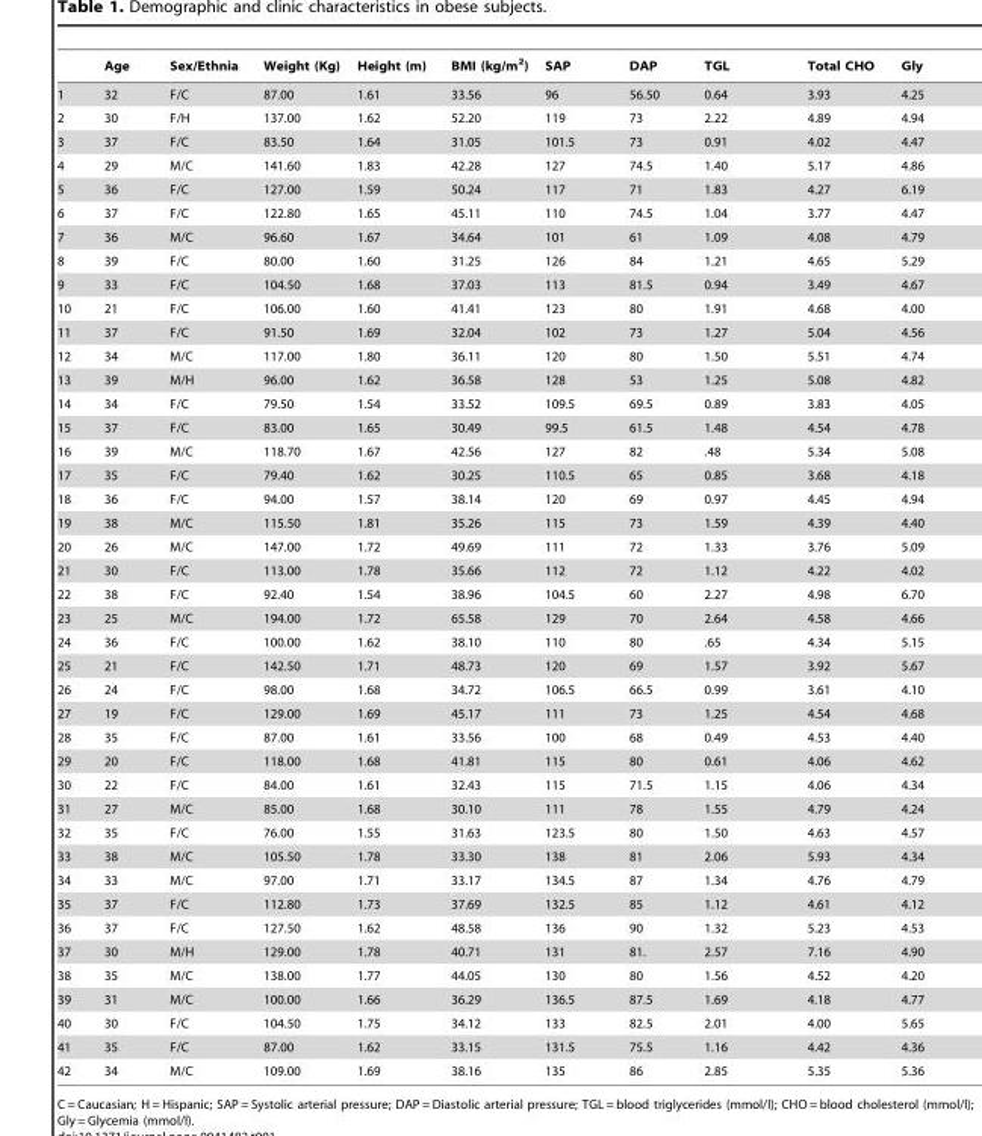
<table><thead><tr><td></td><td>Age</td><td>Sex/Ethnia</td><td>Weight (Kg)</td><td>Height (m)</td><td>BMI (kg/m<sup>2</sup>)</td><td>SAP</td><td>DAP</td><td>TGL</td><td>Total CHO</td><td>Gly</td></tr></thead><tbody><tr><td>1</td><td>32</td><td>F/C</td><td>87.00</td><td>1.61</td><td>33.56</td><td>96</td><td>56.50</td><td>0.64</td><td>3.93</td><td>4.25</td></tr><tr><td>2</td><td>30</td><td>F/H</td><td>137.00</td><td>1.62</td><td>52.20</td><td>119</td><td>73</td><td>2.22</td><td>4.89</td><td>4.94</td></tr><tr><td>3</td><td>37</td><td>F/C</td><td>83.50</td><td>1.64</td><td>31.05</td><td>101.5</td><td>73</td><td>0.91</td><td>4.02</td><td>4.47</td></tr><tr><td>4</td><td>29</td><td>M/C</td><td>141.60</td><td>1.83</td><td>42.28</td><td>127</td><td>74.5</td><td>1.40</td><td>5.17</td><td>4.86</td></tr><tr><td>5</td><td>36</td><td>F/C</td><td>127.00</td><td>1.59</td><td>50.24</td><td>117</td><td>71</td><td>1.83</td><td>4.27</td><td>6.19</td></tr><tr><td>6</td><td>37</td><td>F/C</td><td>122.80</td><td>1.65</td><td>45.11</td><td>110</td><td>74.5</td><td>1.04</td><td>3.77</td><td>4.47</td></tr><tr><td>7</td><td>36</td><td>M/C</td><td>96.60</td><td>1.67</td><td>34.64</td><td>101</td><td>61</td><td>1.09</td><td>4.08</td><td>4.79</td></tr><tr><td>8</td><td>39</td><td>F/C</td><td>80.00</td><td>1.60</td><td>31.25</td><td>126</td><td>84</td><td>1.21</td><td>4.65</td><td>5.29</td></tr><tr><td>9</td><td>33</td><td>F/C</td><td>104.50</td><td>1.68</td><td>37.03</td><td>113</td><td>81.5</td><td>0.94</td><td>3.49</td><td>4.67</td></tr><tr><td>10</td><td>21</td><td>F/C</td><td>106.00</td><td>1.60</td><td>41.41</td><td>123</td><td>80</td><td>1.91</td><td>4.68</td><td>4.00</td></tr><tr><td>11</td><td>37</td><td>F/C</td><td>91.50</td><td>1.69</td><td>32.04</td><td>102</td><td>73</td><td>1.27</td><td>5.04</td><td>4.56</td></tr><tr><td>12</td><td>34</td><td>M/C</td><td>117.00</td><td>1.80</td><td>36.11</td><td>120</td><td>80</td><td>1.50</td><td>5.51</td><td>4.74</td></tr><tr><td>13</td><td>39</td><td>M/H</td><td>96.00</td><td>1.62</td><td>36.58</td><td>128</td><td>53</td><td>1.25</td><td>5.08</td><td>4.82</td></tr><tr><td>14</td><td>34</td><td>F/C</td><td>79.50</td><td>1.54</td><td>33.52</td><td>109.5</td><td>69.5</td><td>0.89</td><td>3.83</td><td>4.05</td></tr><tr><td>15</td><td>37</td><td>F/C</td><td>83.00</td><td>1.65</td><td>30.49</td><td>99.5</td><td>61.5</td><td>1.48</td><td>4.54</td><td>4.78</td></tr><tr><td>16</td><td>39</td><td>M/C</td><td>118.70</td><td>1.67</td><td>42.56</td><td>127</td><td>82</td><td>.48</td><td>5.34</td><td>5.08</td></tr><tr><td>17</td><td>35</td><td>F/C</td><td>79.40</td><td>1.62</td><td>30.25</td><td>110.5</td><td>65</td><td>0.85</td><td>3.68</td><td>4.18</td></tr><tr><td>18</td><td>36</td><td>F/C</td><td>94.00</td><td>1.57</td><td>38.14</td><td>120</td><td>69</td><td>0.97</td><td>4.45</td><td>4.94</td></tr><tr><td>19</td><td>38</td><td>M/C</td><td>115.50</td><td>1.81</td><td>35.26</td><td>115</td><td>73</td><td>1.59</td><td>4.39</td><td>4.40</td></tr><tr><td>20</td><td>26</td><td>M/C</td><td>147.00</td><td>1.72</td><td>49.69</td><td>111</td><td>72</td><td>1.33</td><td>3.76</td><td>5.09</td></tr><tr><td>21</td><td>30</td><td>F/C</td><td>113.00</td><td>1.78</td><td>35.66</td><td>112</td><td>72</td><td>1.12</td><td>4.22</td><td>4.02</td></tr><tr><td>22</td><td>38</td><td>F/C</td><td>92.40</td><td>1.54</td><td>38.96</td><td>104.5</td><td>60</td><td>2.27</td><td>4.98</td><td>6.70</td></tr><tr><td>23</td><td>25</td><td>M/C</td><td>194.00</td><td>1.72</td><td>65.58</td><td>129</td><td>70</td><td>2.64</td><td>4.58</td><td>4.66</td></tr><tr><td>24</td><td>36</td><td>F/C</td><td>100.00</td><td>1.62</td><td>38.10</td><td>110</td><td>80</td><td>.65</td><td>4.34</td><td>5.15</td></tr><tr><td>25</td><td>21</td><td>F/C</td><td>142.50</td><td>1.71</td><td>48.73</td><td>120</td><td>69</td><td>1.57</td><td>3.92</td><td>5.67</td></tr><tr><td>26</td><td>24</td><td>F/C</td><td>98.00</td><td>1.68</td><td>34.72</td><td>106.5</td><td>66.5</td><td>0.99</td><td>3.61</td><td>4.10</td></tr><tr><td>27</td><td>19</td><td>F/C</td><td>129.00</td><td>1.69</td><td>45.17</td><td>111</td><td>73</td><td>1.25</td><td>4.54</td><td>4.68</td></tr><tr><td>28</td><td>35</td><td>F/C</td><td>87.00</td><td>1.61</td><td>33.56</td><td>100</td><td>68</td><td>0.49</td><td>4.53</td><td>4.40</td></tr><tr><td>29</td><td>20</td><td>F/C</td><td>118.00</td><td>1.68</td><td>41.81</td><td>115</td><td>80</td><td>0.61</td><td>4.06</td><td>4.62</td></tr><tr><td>30</td><td>22</td><td>F/C</td><td>84.00</td><td>1.61</td><td>32.43</td><td>115</td><td>71.5</td><td>1.15</td><td>4.06</td><td>4.34</td></tr><tr><td>31</td><td>27</td><td>M/C</td><td>85.00</td><td>1.68</td><td>30.10</td><td>111</td><td>78</td><td>1.55</td><td>4.79</td><td>4.24</td></tr><tr><td>32</td><td>35</td><td>F/C</td><td>76.00</td><td>1.55</td><td>31.63</td><td>123.5</td><td>80</td><td>1.50</td><td>4.63</td><td>4.57</td></tr><tr><td>33</td><td>38</td><td>M/C</td><td>105.50</td><td>1.78</td><td>33.30</td><td>138</td><td>81</td><td>2.06</td><td>5.93</td><td>4.34</td></tr><tr><td>34</td><td>33</td><td>M/C</td><td>97.00</td><td>1.71</td><td>33.17</td><td>134.5</td><td>87</td><td>1.34</td><td>4.76</td><td>4.79</td></tr><tr><td>35</td><td>37</td><td>F/C</td><td>112.80</td><td>1.73</td><td>37.69</td><td>132.5</td><td>85</td><td>1.12</td><td>4.61</td><td>4.12</td></tr><tr><td>36</td><td>37</td><td>F/C</td><td>127.50</td><td>1.62</td><td>48.58</td><td>136</td><td>90</td><td>1.32</td><td>5.23</td><td>4.53</td></tr><tr><td>37</td><td>30</td><td>M/H</td><td>129.00</td><td>1.78</td><td>40.71</td><td>131</td><td>81.</td><td>2.57</td><td>7.16</td><td>4.90</td></tr><tr><td>38</td><td>35</td><td>M/C</td><td>138.00</td><td>1.77</td><td>44.05</td><td>130</td><td>80</td><td>1.56</td><td>4.52</td><td>4.20</td></tr><tr><td>39</td><td>31</td><td>M/C</td><td>100.00</td><td>1.66</td><td>36.29</td><td>136.5</td><td>87.5</td><td>1.69</td><td>4.18</td><td>4.77</td></tr><tr><td>40</td><td>30</td><td>F/C</td><td>104.50</td><td>1.75</td><td>34.12</td><td>133</td><td>82.5</td><td>2.01</td><td>4.00</td><td>5.65</td></tr><tr><td>41</td><td>35</td><td>F/C</td><td>87.00</td><td>1.62</td><td>33.15</td><td>131.5</td><td>75.5</td><td>1.16</td><td>4.42</td><td>4.36</td></tr><tr><td>42</td><td>34</td><td>M/C</td><td>109.00</td><td>1.69</td><td>38.16</td><td>135</td><td>86</td><td>2.85</td><td>5.35</td><td>5.36</td></tr></tbody></table>